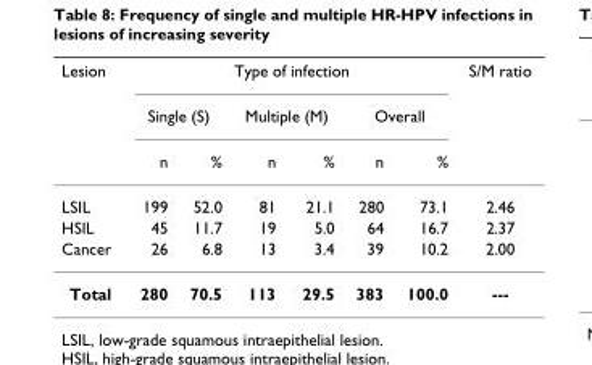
<table><thead><tr><td rowspan="3">Lesion</td><td colspan="6">Type of infection</td><td rowspan="3">S/M ratio</td></tr><tr><td colspan="2">Single (S)</td><td colspan="2">Multiple (M)</td><td colspan="2">Overall</td></tr><tr><td>n</td><td>%</td><td>n</td><td>%</td><td>n</td><td>%</td></tr></thead><tbody><tr><td>LSIL</td><td>199</td><td>52.0</td><td>81</td><td>21.1</td><td>280</td><td>73.1</td><td>2.46</td></tr><tr><td>HSIL</td><td>45</td><td>11.7</td><td>19</td><td>5.0</td><td>64</td><td>16.7</td><td>2.37</td></tr><tr><td>Cancer</td><td>26</td><td>6.8</td><td>13</td><td>3.4</td><td>39</td><td>10.2</td><td>2.00</td></tr><tr><td>Total</td><td>280</td><td>70.5</td><td>113</td><td>29.5</td><td>383</td><td>100.0</td><td>---</td></tr></tbody></table>